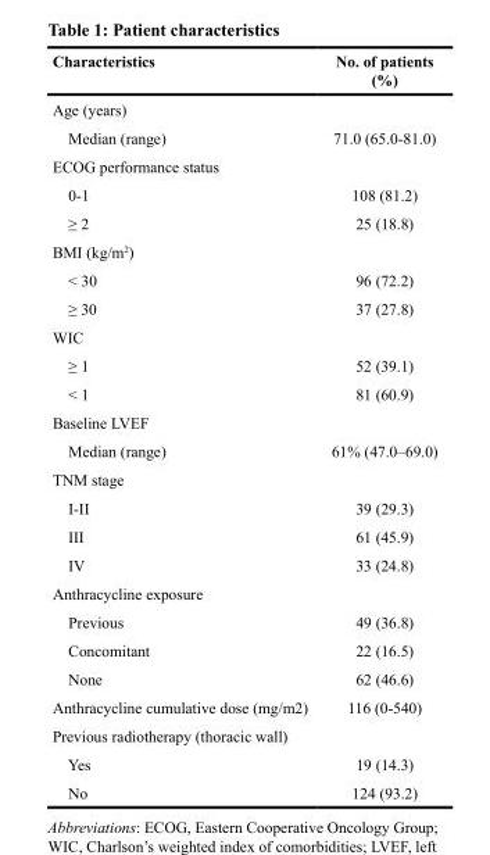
<table><thead><tr><td>Characteristics</td><td>No. of patients (%)</td></tr></thead><tbody><tr><td colspan="2">Age (years)</td></tr><tr><td>Median (range)</td><td>71.0 (65.0-81.0)</td></tr><tr><td colspan="2">ECOG performance status</td></tr><tr><td>0-1</td><td>108 (81.2)</td></tr><tr><td>≥ 2</td><td>25 (18.8)</td></tr><tr><td colspan="2">BMI (kg/m<sup>2</sup>)</td></tr><tr><td>&lt; 30</td><td>96 (72.2)</td></tr><tr><td>≥ 30</td><td>37 (27.8)</td></tr><tr><td colspan="2">WIC</td></tr><tr><td>≥ 1</td><td>52 (39.1)</td></tr><tr><td>&lt; 1</td><td>81 (60.9)</td></tr><tr><td colspan="2">Baseline LVEF</td></tr><tr><td>Median (range)</td><td>61% (47.0–69.0)</td></tr><tr><td colspan="2">TNM stage</td></tr><tr><td>I-II</td><td>39 (29.3)</td></tr><tr><td>III</td><td>61 (45.9)</td></tr><tr><td>IV</td><td>33 (24.8)</td></tr><tr><td colspan="2">Anthracycline exposure</td></tr><tr><td>Previous</td><td>49 (36.8)</td></tr><tr><td>Concomitant</td><td>22 (16.5)</td></tr><tr><td>None</td><td>62 (46.6)</td></tr><tr><td>Anthracycline cumulative dose (mg/m2)</td><td>116 (0-540)</td></tr><tr><td colspan="2">Previous radiotherapy (thoracic wall)</td></tr><tr><td>Yes</td><td>19 (14.3)</td></tr><tr><td>No</td><td>124 (93.2)</td></tr></tbody></table>